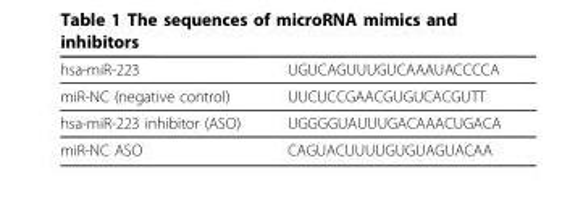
<table><thead><tr><td>hsa-miR-223</td><td>UGUCAGUUUGUCAAAUACCCCA</td></tr></thead><tbody><tr><td>miR-NC (negative control)</td><td>UUCUCCGAACGUGUCACGUTT</td></tr><tr><td>hsa-miR-223 inhibitor (ASO)</td><td>UGGGGUAUUUGACAAACUGACA</td></tr><tr><td>miR-NC ASO</td><td>CAGUACUUUUGUGUAGUACAA</td></tr></tbody></table>